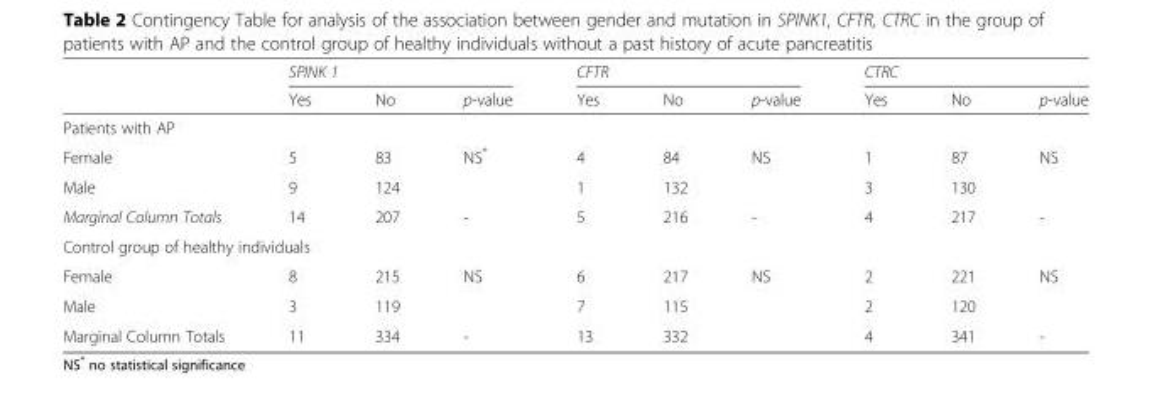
<table><thead><tr><td rowspan="2"></td><td colspan="3">SPINK 1</td><td colspan="3">CFTR</td><td colspan="3">CTRC</td></tr><tr><td>Yes</td><td>No</td><td>p-value</td><td>Yes</td><td>No</td><td>p-value</td><td>Yes</td><td>No</td><td>p-value</td></tr></thead><tbody><tr><td colspan="10">Patients with AP</td></tr><tr><td>Female</td><td>5</td><td>83</td><td rowspan="2">NS*</td><td>4</td><td>84</td><td rowspan="2">NS</td><td>1</td><td>87</td><td rowspan="2">NS</td></tr><tr><td>Male</td><td>9</td><td>124</td><td>1</td><td>132</td><td>3</td><td>130</td></tr><tr><td>Marginal Column Totals</td><td>14</td><td>207</td><td>-</td><td>5</td><td>216</td><td>-</td><td>4</td><td>217</td><td>-</td></tr><tr><td colspan="10">Control group of healthy individuals</td></tr><tr><td>Female</td><td>8</td><td>215</td><td rowspan="2">NS</td><td>6</td><td>217</td><td rowspan="2">NS</td><td>2</td><td>221</td><td rowspan="2">NS</td></tr><tr><td>Male</td><td>3</td><td>119</td><td>7</td><td>115</td><td>2</td><td>120</td></tr><tr><td>Marginal Column Totals</td><td>11</td><td>334</td><td>-</td><td>13</td><td>332</td><td></td><td>4</td><td>341</td><td>-</td></tr></tbody></table>